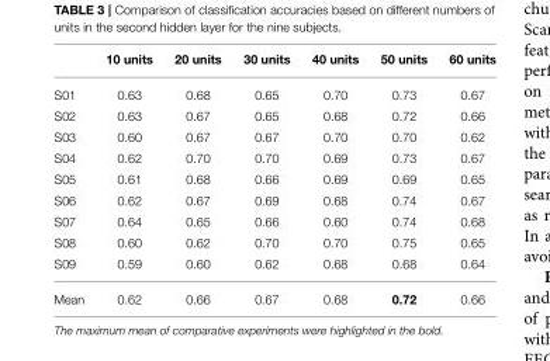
<table><thead><tr><td></td><td>10 units</td><td>20 units</td><td>30 units</td><td>40 units</td><td>50 units</td><td>60 units</td></tr></thead><tbody><tr><td>S01</td><td>0.63</td><td>0.68</td><td>0.65</td><td>0.70</td><td>0.73</td><td>0.67</td></tr><tr><td>S02</td><td>0.63</td><td>0.67</td><td>0.65</td><td>0.68</td><td>0.72</td><td>0.66</td></tr><tr><td>S03</td><td>0.60</td><td>0.67</td><td>0.67</td><td>0.70</td><td>0.70</td><td>0.62</td></tr><tr><td>S04</td><td>0.62</td><td>0.70</td><td>0.70</td><td>0.69</td><td>0.73</td><td>0.67</td></tr><tr><td>S05</td><td>0.61</td><td>0.68</td><td>0.66</td><td>0.69</td><td>0.69</td><td>0.65</td></tr><tr><td>S06</td><td>0.62</td><td>0.67</td><td>0.69</td><td>0.68</td><td>0.74</td><td>0.67</td></tr><tr><td>S07</td><td>0.64</td><td>0.65</td><td>0.66</td><td>0.60</td><td>0.74</td><td>0.68</td></tr><tr><td>S08</td><td>0.60</td><td>0.62</td><td>0.70</td><td>0.70</td><td>0.75</td><td>0.65</td></tr><tr><td>S09</td><td>0.59</td><td>0.60</td><td>0.62</td><td>0.68</td><td>0.68</td><td>0.64</td></tr><tr><td>Mean</td><td>0.62</td><td>0.66</td><td>0.67</td><td>0.68</td><td>0.72</td><td>0.66</td></tr></tbody></table>